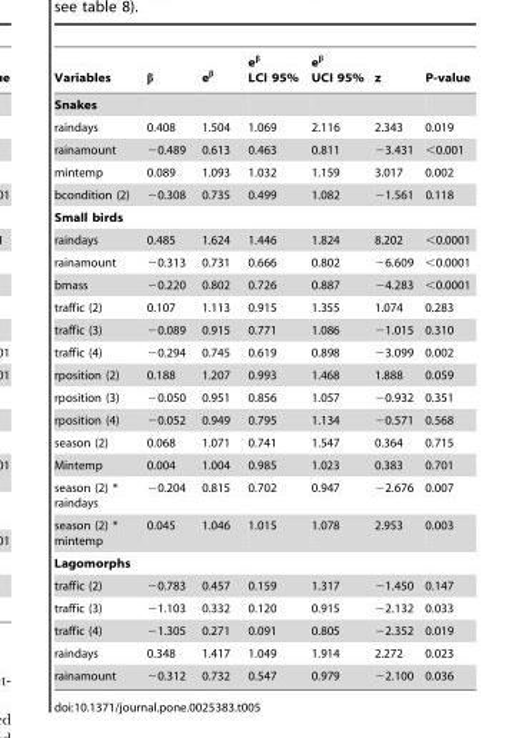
<table><thead><tr><td>Variables</td><td>β</td><td>e<sup>β</sup></td><td>e<sup>β</sup> LCI 95%</td><td>e<sup>β</sup> UCI 95%</td><td>z</td><td>P-value</td></tr></thead><tbody><tr><td colspan="7">Snakes</td></tr><tr><td>raindays</td><td>0.408</td><td>1.504</td><td>1.069</td><td>2.116</td><td>2.343</td><td>0.019</td></tr><tr><td>rainamount</td><td>−0.489</td><td>0.613</td><td>0.463</td><td>0.811</td><td>−3.431</td><td>&lt;0.001</td></tr><tr><td>mintemp</td><td>0.089</td><td>1.093</td><td>1.032</td><td>1.159</td><td>3.017</td><td>0.002</td></tr><tr><td>bcondition (2)</td><td>−0.308</td><td>0.735</td><td>0.499</td><td>1.082</td><td>−1.561</td><td>0.118</td></tr><tr><td colspan="7">Small birds</td></tr><tr><td>raindays</td><td>0.485</td><td>1.624</td><td>1.446</td><td>1.824</td><td>8.202</td><td>&lt;0.0001</td></tr><tr><td>rainamount</td><td>−0.313</td><td>0.731</td><td>0.666</td><td>0.802</td><td>−6.609</td><td>&lt;0.0001</td></tr><tr><td>bmass</td><td>−0.220</td><td>0.802</td><td>0.726</td><td>0.887</td><td>−4.283</td><td>&lt;0.0001</td></tr><tr><td>traffic (2)</td><td>0.107</td><td>1.113</td><td>0.915</td><td>1.355</td><td>1.074</td><td>0.283</td></tr><tr><td>traffic (3)</td><td>−0.089</td><td>0.915</td><td>0.771</td><td>1.086</td><td>−1.015</td><td>0.310</td></tr><tr><td>traffic (4)</td><td>−0.294</td><td>0.745</td><td>0.619</td><td>0.898</td><td>−3.099</td><td>0.002</td></tr><tr><td>rposition (2)</td><td>0.188</td><td>1.207</td><td>0.993</td><td>1.468</td><td>1.888</td><td>0.059</td></tr><tr><td>rposition (3)</td><td>−0.050</td><td>0.951</td><td>0.856</td><td>1.057</td><td>−0.932</td><td>0.351</td></tr><tr><td>rposition (4)</td><td>−0.052</td><td>0.949</td><td>0.795</td><td>1.134</td><td>−0.571</td><td>0.568</td></tr><tr><td>season (2)</td><td>0.068</td><td>1.071</td><td>0.741</td><td>1.547</td><td>0.364</td><td>0.715</td></tr><tr><td>Mintemp</td><td>0.004</td><td>1.004</td><td>0.985</td><td>1.023</td><td>0.383</td><td>0.701</td></tr><tr><td>season (2) * raindays</td><td>−0.204</td><td>0.815</td><td>0.702</td><td>0.947</td><td>−2.676</td><td>0.007</td></tr><tr><td>season (2) * mintemp</td><td>0.045</td><td>1.046</td><td>1.015</td><td>1.078</td><td>2.953</td><td>0.003</td></tr><tr><td colspan="7">Lagomorphs</td></tr><tr><td>traffic (2)</td><td>−0.783</td><td>0.457</td><td>0.159</td><td>1.317</td><td>−1.450</td><td>0.147</td></tr><tr><td>traffic (3)</td><td>−1.103</td><td>0.332</td><td>0.120</td><td>0.915</td><td>−2.132</td><td>0.033</td></tr><tr><td>traffic (4)</td><td>−1.305</td><td>0.271</td><td>0.091</td><td>0.805</td><td>−2.352</td><td>0.019</td></tr><tr><td>raindays</td><td>0.348</td><td>1.417</td><td>1.049</td><td>1.914</td><td>2.272</td><td>0.023</td></tr><tr><td>rainamount</td><td>−0.312</td><td>0.732</td><td>0.547</td><td>0.979</td><td>−2.100</td><td>0.036</td></tr></tbody></table>